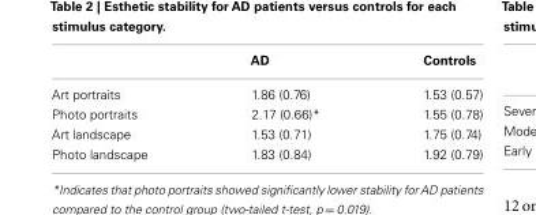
<table><thead><tr><td></td><td>AD</td><td>Controls</td></tr></thead><tbody><tr><td>Art portraits</td><td>1.86 (0.76)</td><td>1.53 (0.57)</td></tr><tr><td>Photo portraits</td><td>2.17 (0.66)*</td><td>1.55 (0.78)</td></tr><tr><td>Art landscape</td><td>1.53 (0.71)</td><td>1.75 (0.74)</td></tr><tr><td>Photo landscape</td><td>1.83 (0.84)</td><td>1.92 (0.79)</td></tr></tbody></table>